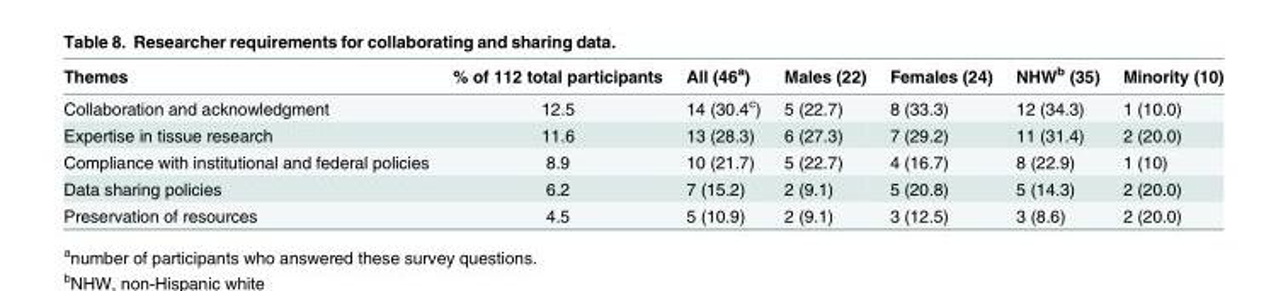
<table><thead><tr><td>Themes</td><td>% of 112 total participants</td><td>All (46<sup>a</sup>)</td><td>Males (22)</td><td>Females (24)</td><td>NHW<sup>b</sup> (35)</td><td>Minority (10)</td></tr></thead><tbody><tr><td>Collaboration and acknowledgment</td><td>12.5</td><td>14 (30.4<sup>c</sup>)</td><td>5 (22.7)</td><td>8 (33.3)</td><td>12 (34.3)</td><td>1 (10.0)</td></tr><tr><td>Expertise in tissue research</td><td>11.6</td><td>13 (28.3)</td><td>6 (27.3)</td><td>7 (29.2)</td><td>11 (31.4)</td><td>2 (20.0)</td></tr><tr><td>Compliance with institutional and federal policies</td><td>8.9</td><td>10 (21.7)</td><td>5 (22.7)</td><td>4 (16.7)</td><td>8 (22.9)</td><td>1 (10)</td></tr><tr><td>Data sharing policies</td><td>6.2</td><td>7 (15.2)</td><td>2 (9.1)</td><td>5 (20.8)</td><td>5 (14.3)</td><td>2 (20.0)</td></tr><tr><td>Preservation of resources</td><td>4.5</td><td>5 (10.9)</td><td>2 (9.1)</td><td>3 (12.5)</td><td>3 (8.6)</td><td>2 (20.0)</td></tr></tbody></table>